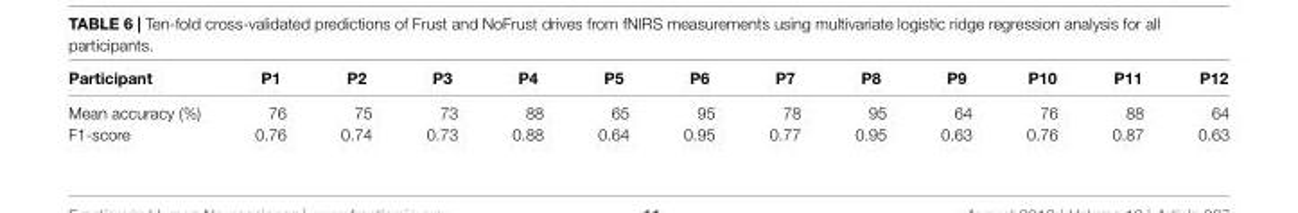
<table><thead><tr><td>Participant</td><td>P1</td><td>P2</td><td>P3</td><td>P4</td><td>P5</td><td>P6</td><td>P7</td><td>P8</td><td>P9</td><td>P10</td><td>P11</td><td>P12</td></tr></thead><tbody><tr><td>Mean accuracy (%)</td><td>76</td><td>75</td><td>73</td><td>88</td><td>65</td><td>95</td><td>78</td><td>95</td><td>64</td><td>76</td><td>88</td><td>64</td></tr><tr><td>F1-score</td><td>0.76</td><td>0.74</td><td>0.73</td><td>0.88</td><td>0.64</td><td>0.95</td><td>0.77</td><td>0.95</td><td>0.63</td><td>0.76</td><td>0.87</td><td>0.63</td></tr></tbody></table>